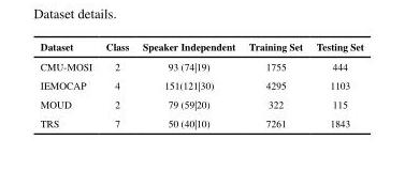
<table><thead><tr><td>Dataset</td><td>Class</td><td>Speaker Independent</td><td>Training Set</td><td>Testing Set</td></tr></thead><tbody><tr><td>CMU-MOSI</td><td>2</td><td>93 (74|19)</td><td>1755</td><td>444</td></tr><tr><td>IEMOCAP</td><td>4</td><td>151(121|30)</td><td>4295</td><td>1103</td></tr><tr><td>MOUD</td><td>2</td><td>79 (59|20)</td><td>322</td><td>115</td></tr><tr><td>TRS</td><td>7</td><td>50 (40|10)</td><td>7261</td><td>1843</td></tr></tbody></table>